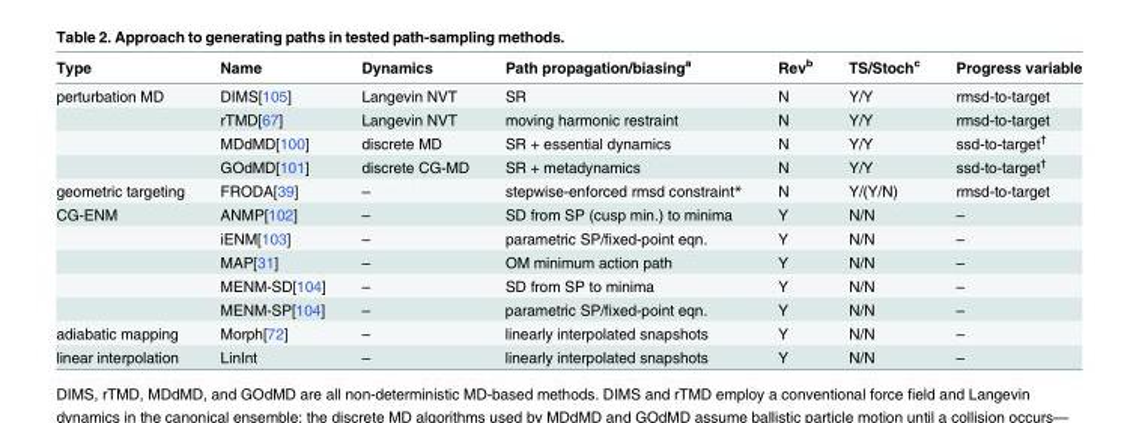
<table><thead><tr><td>Type</td><td>Name</td><td>Dynamics</td><td>Path propagation/biasing<sup>a</sup></td><td>Rev<sup>b</sup></td><td>TS/Stoch<sup>c</sup></td><td>Progress variable</td></tr></thead><tbody><tr><td rowspan="4">perturbation MD</td><td>DIMS[105]</td><td>Langevin NVT</td><td>SR</td><td>N</td><td>Y/Y</td><td>rmsd-to-target</td></tr><tr><td>rTMD[67]</td><td>Langevin NVT</td><td>moving harmonic restraint</td><td>N</td><td>Y/Y</td><td>rmsd-to-target</td></tr><tr><td>MDdMD[100]</td><td>discrete MD</td><td>SR + essential dynamics</td><td>N</td><td>Y/Y</td><td>ssd-to-target<sup>†</sup></td></tr><tr><td>GOdMD[101]</td><td>discrete CG-MD</td><td>SR + metadynamics</td><td>N</td><td>Y/Y</td><td>ssd-to-target<sup>†</sup></td></tr><tr><td>geometric targeting</td><td>FRODA[39]</td><td>–</td><td>stepwise-enforced rmsd constraint*</td><td>N</td><td>Y/(Y/N)</td><td>rmsd-to-target</td></tr><tr><td rowspan="5">CG-ENM</td><td>ANMP[102]</td><td>–</td><td>SD from SP (cusp min.) to minima</td><td>Y</td><td>N/N</td><td>–</td></tr><tr><td>iENM[103]</td><td>–</td><td>parametric SP/fixed-point eqn.</td><td>Y</td><td>N/N</td><td>–</td></tr><tr><td>MAP[31]</td><td>–</td><td>OM minimum action path</td><td>Y</td><td>N/N</td><td>–</td></tr><tr><td>MENM-SD[104]</td><td>–</td><td>SD from SP to minima</td><td>Y</td><td>N/N</td><td>–</td></tr><tr><td>MENM-SP[104]</td><td>–</td><td>parametric SP/fixed-point eqn.</td><td>Y</td><td>N/N</td><td>–</td></tr><tr><td>adiabatic mapping</td><td>Morph[72]</td><td>–</td><td>linearly interpolated snapshots</td><td>Y</td><td>N/N</td><td>–</td></tr><tr><td>linear interpolation</td><td>LinInt</td><td>–</td><td>linearly interpolated snapshots</td><td>Y</td><td>N/N</td><td>–</td></tr></tbody></table>